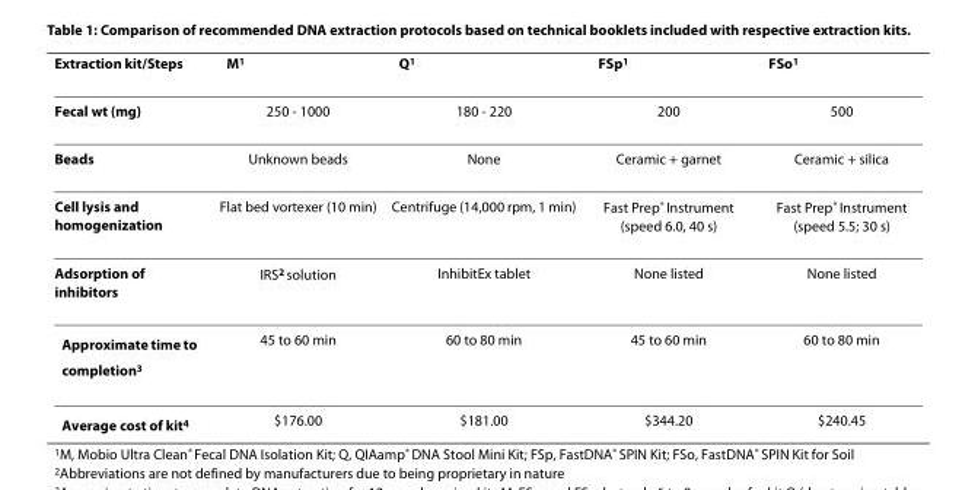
<table><thead><tr><td>Extraction kit/Steps</td><td>M<sup>1</sup></td><td>Q<sup>1</sup></td><td>FSp<sup>1</sup></td><td>FSo<sup>1</sup></td></tr></thead><tbody><tr><td>Fecal wt (mg)</td><td>250 - 1000</td><td>180 - 220</td><td>200</td><td>500</td></tr><tr><td>Beads</td><td>Unknown beads</td><td>None</td><td>Ceramic + garnet</td><td>Ceramic + silica</td></tr><tr><td>Cell lysis and homogenization</td><td>Flat bed vortexer (10 min)</td><td>Centrifuge (14,000 rpm, 1 min)</td><td>Fast Prep<sup>®</sup> Instrument (speed 6.0, 40 s)</td><td>Fast Prep<sup>®</sup> Instrument (speed 5.5; 30 s)</td></tr><tr><td>Adsorption of inhibitors</td><td>IRS<sup>2</sup> solution</td><td>InhibitEx tablet</td><td>None listed</td><td>None listed</td></tr><tr><td>Approximate time to completion<sup>3</sup></td><td>45 to 60 min</td><td>60 to 80 min</td><td>45 to 60 min</td><td>60 to 80 min</td></tr><tr><td>Average cost of kit<sup>4</sup></td><td>$176.00</td><td>$181.00</td><td>$344.20</td><td>$240.45</td></tr></tbody></table>